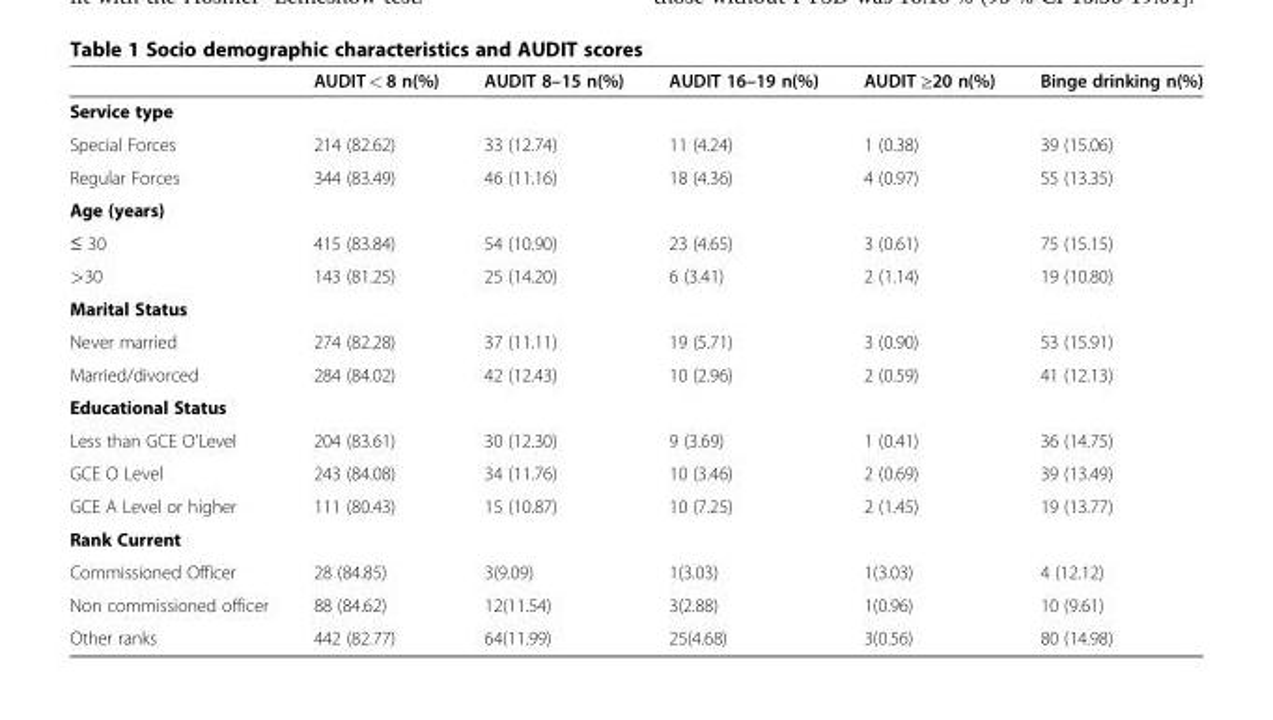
<table><thead><tr><td></td><td>AUDIT &lt; 8 n(%)</td><td>AUDIT 8–15 n(%)</td><td>AUDIT 16–19 n(%)</td><td>AUDIT ≥20 n(%)</td><td>Binge drinking n(%)</td></tr></thead><tbody><tr><td colspan="6">Service type</td></tr><tr><td>Special Forces</td><td>214 (82.62)</td><td>33 (12.74)</td><td>11 (4.24)</td><td>1 (0.38)</td><td>39 (15.06)</td></tr><tr><td>Regular Forces</td><td>344 (83.49)</td><td>46 (11.16)</td><td>18 (4.36)</td><td>4 (0.97)</td><td>55 (13.35)</td></tr><tr><td colspan="6">Age (years)</td></tr><tr><td>≤ 30</td><td>415 (83.84)</td><td>54 (10.90)</td><td>23 (4.65)</td><td>3 (0.61)</td><td>75 (15.15)</td></tr><tr><td>&gt;30</td><td>143 (81.25)</td><td>25 (14.20)</td><td>6 (3.41)</td><td>2 (1.14)</td><td>19 (10.80)</td></tr><tr><td colspan="6">Marital Status</td></tr><tr><td>Never married</td><td>274 (82.28)</td><td>37 (11.11)</td><td>19 (5.71)</td><td>3 (0.90)</td><td>53 (15.91)</td></tr><tr><td>Married/divorced</td><td>284 (84.02)</td><td>42 (12.43)</td><td>10 (2.96)</td><td>2 (0.59)</td><td>41 (12.13)</td></tr><tr><td colspan="6">Educational Status</td></tr><tr><td>Less than GCE O’Level</td><td>204 (83.61)</td><td>30 (12.30)</td><td>9 (3.69)</td><td>1 (0.41)</td><td>36 (14.75)</td></tr><tr><td>GCE O Level</td><td>243 (84.08)</td><td>34 (11.76)</td><td>10 (3.46)</td><td>2 (0.69)</td><td>39 (13.49)</td></tr><tr><td>GCE A Level or higher</td><td>111 (80.43)</td><td>15 (10.87)</td><td>10 (7.25)</td><td>2 (1.45)</td><td>19 (13.77)</td></tr><tr><td colspan="6">Rank Current</td></tr><tr><td>Commissioned Officer</td><td>28 (84.85)</td><td>3(9.09)</td><td>1(3.03)</td><td>1(3.03)</td><td>4 (12.12)</td></tr><tr><td>Non commissioned officer</td><td>88 (84.62)</td><td>12(11.54)</td><td>3(2.88)</td><td>1(0.96)</td><td>10 (9.61)</td></tr><tr><td>Other ranks</td><td>442 (82.77)</td><td>64(11.99)</td><td>25(4.68)</td><td>3(0.56)</td><td>80 (14.98)</td></tr></tbody></table>